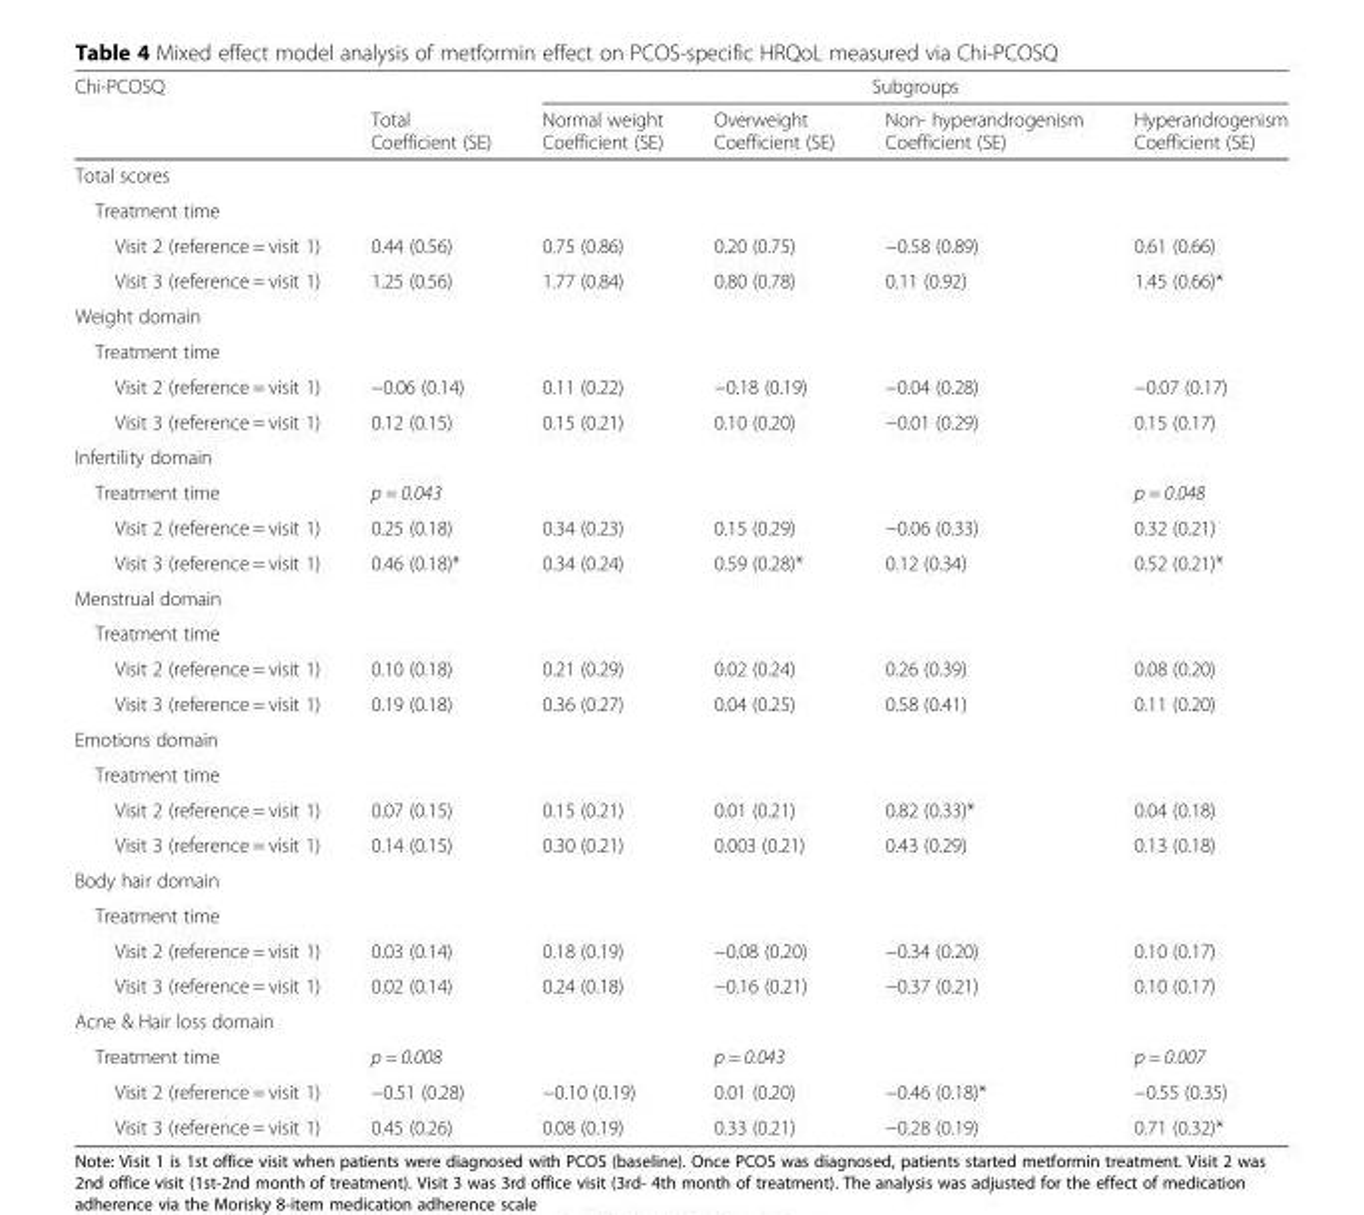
<table><thead><tr><td rowspan="2">Chi-PCOSQ</td><td rowspan="2">Total Coefficient (SE)</td><td colspan="4">Subgroups</td></tr><tr><td>Normal weight Coefficient (SE)</td><td>Overweight Coefficient (SE)</td><td>Non- hyperandrogenism Coefficient (SE)</td><td>Hyperandrogenism Coefficient (SE)</td></tr></thead><tbody><tr><td colspan="6">Total scores</td></tr><tr><td colspan="6">Treatment time</td></tr><tr><td>Visit 2 (reference = visit 1)</td><td>0.44 (0.56)</td><td>0.75 (0.86)</td><td>0.20 (0.75)</td><td>−0.58 (0.89)</td><td>0.61 (0.66)</td></tr><tr><td>Visit 3 (reference = visit 1)</td><td>1.25 (0.56)</td><td>1.77 (0.84)</td><td>0.80 (0.78)</td><td>0.11 (0.92)</td><td>1.45 (0.66)*</td></tr><tr><td colspan="6">Weight domain</td></tr><tr><td colspan="6">Treatment time</td></tr><tr><td>Visit 2 (reference = visit 1)</td><td>−0.06 (0.14)</td><td>0.11 (0.22)</td><td>−0.18 (0.19)</td><td>−0.04 (0.28)</td><td>−0.07 (0.17)</td></tr><tr><td>Visit 3 (reference = visit 1)</td><td>0.12 (0.15)</td><td>0.15 (0.21)</td><td>0.10 (0.20)</td><td>−0.01 (0.29)</td><td>0.15 (0.17)</td></tr><tr><td colspan="6">Infertility domain</td></tr><tr><td>Treatment time</td><td>p = 0.043</td><td></td><td></td><td></td><td>p = 0.048</td></tr><tr><td>Visit 2 (reference = visit 1)</td><td>0.25 (0.18)</td><td>0.34 (0.23)</td><td>0.15 (0.29)</td><td>−0.06 (0.33)</td><td>0.32 (0.21)</td></tr><tr><td>Visit 3 (reference = visit 1)</td><td>0.46 (0.18)*</td><td>0.34 (0.24)</td><td>0.59 (0.28)*</td><td>0.12 (0.34)</td><td>0.52 (0.21)*</td></tr><tr><td colspan="6">Menstrual domain</td></tr><tr><td colspan="6">Treatment time</td></tr><tr><td>Visit 2 (reference = visit 1)</td><td>0.10 (0.18)</td><td>0.21 (0.29)</td><td>0.02 (0.24)</td><td>0.26 (0.39)</td><td>0.08 (0.20)</td></tr><tr><td>Visit 3 (reference = visit 1)</td><td>0.19 (0.18)</td><td>0.36 (0.27)</td><td>0.04 (0.25)</td><td>0.58 (0.41)</td><td>0.11 (0.20)</td></tr><tr><td colspan="6">Emotions domain</td></tr><tr><td colspan="6">Treatment time</td></tr><tr><td>Visit 2 (reference = visit 1)</td><td>0.07 (0.15)</td><td>0.15 (0.21)</td><td>0.01 (0.21)</td><td>0.82 (0.33)*</td><td>0.04 (0.18)</td></tr><tr><td>Visit 3 (reference = visit 1)</td><td>0.14 (0.15)</td><td>0.30 (0.21)</td><td>0.003 (0.21)</td><td>0.43 (0.29)</td><td>0.13 (0.18)</td></tr><tr><td colspan="6">Body hair domain</td></tr><tr><td colspan="6">Treatment time</td></tr><tr><td>Visit 2 (reference = visit 1)</td><td>0.03 (0.14)</td><td>0.18 (0.19)</td><td>−0.08 (0.20)</td><td>−0.34 (0.20)</td><td>0.10 (0.17)</td></tr><tr><td>Visit 3 (reference = visit 1)</td><td>0.02 (0.14)</td><td>0.24 (0.18)</td><td>−0.16 (0.21)</td><td>−0.37 (0.21)</td><td>0.10 (0.17)</td></tr><tr><td colspan="6">Acne &amp; Hair loss domain</td></tr><tr><td>Treatment time</td><td>p = 0.008</td><td></td><td>p = 0.043</td><td></td><td>p = 0.007</td></tr><tr><td>Visit 2 (reference = visit 1)</td><td>−0.51 (0.28)</td><td>−0.10 (0.19)</td><td>0.01 (0.20)</td><td>−0.46 (0.18)*</td><td>−0.55 (0.35)</td></tr><tr><td>Visit 3 (reference = visit 1)</td><td>0.45 (0.26)</td><td>0.08 (0.19)</td><td>0.33 (0.21)</td><td>−0.28 (0.19)</td><td>0.71 (0.32)*</td></tr></tbody></table>